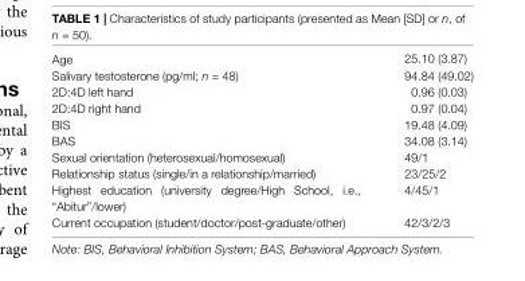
<table><tbody><tr><td>Age</td><td>25.10 (3.87)</td></tr><tr><td>Salivary testosterone (pg/ml; n = 48)</td><td>94.84 (49.02)</td></tr><tr><td>2D:4D left hand</td><td>0.96 (0.03)</td></tr><tr><td>2D:4D right hand</td><td>0.97 (0.04)</td></tr><tr><td>BIS</td><td>19.48 (4.09)</td></tr><tr><td>BAS</td><td>34.08 (3.14)</td></tr><tr><td>Sexual orientation (heterosexual/homosexual)</td><td>49/1</td></tr><tr><td>Relationship status (single/in a relationship/married)</td><td>23/25/2</td></tr><tr><td>Highest education (university degree/High School, i.e., “Abitur”/lower)</td><td>4/45/1</td></tr><tr><td>Current occupation (student/doctor/post-graduate/other)</td><td>42/3/2/3</td></tr></tbody></table>